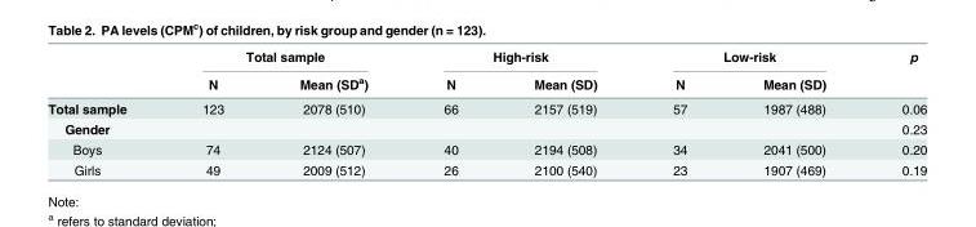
<table><thead><tr><td rowspan="2"></td><td colspan="2">Total sample</td><td colspan="2">High-risk</td><td colspan="2">Low-risk</td><td rowspan="2">p</td></tr><tr><td>N</td><td>Mean (SD<sup>a</sup>)</td><td>N</td><td>Mean (SD)</td><td>N</td><td>Mean (SD)</td></tr></thead><tbody><tr><td>Total sample</td><td>123</td><td>2078 (510)</td><td>66</td><td>2157 (519)</td><td>57</td><td>1987 (488)</td><td>0.06</td></tr><tr><td>Gender</td><td></td><td></td><td></td><td></td><td></td><td></td><td>0.23</td></tr><tr><td>Boys</td><td>74</td><td>2124 (507)</td><td>40</td><td>2194 (508)</td><td>34</td><td>2041 (500)</td><td>0.20</td></tr><tr><td>Girls</td><td>49</td><td>2009 (512)</td><td>26</td><td>2100 (540)</td><td>23</td><td>1907 (469)</td><td>0.19</td></tr></tbody></table>